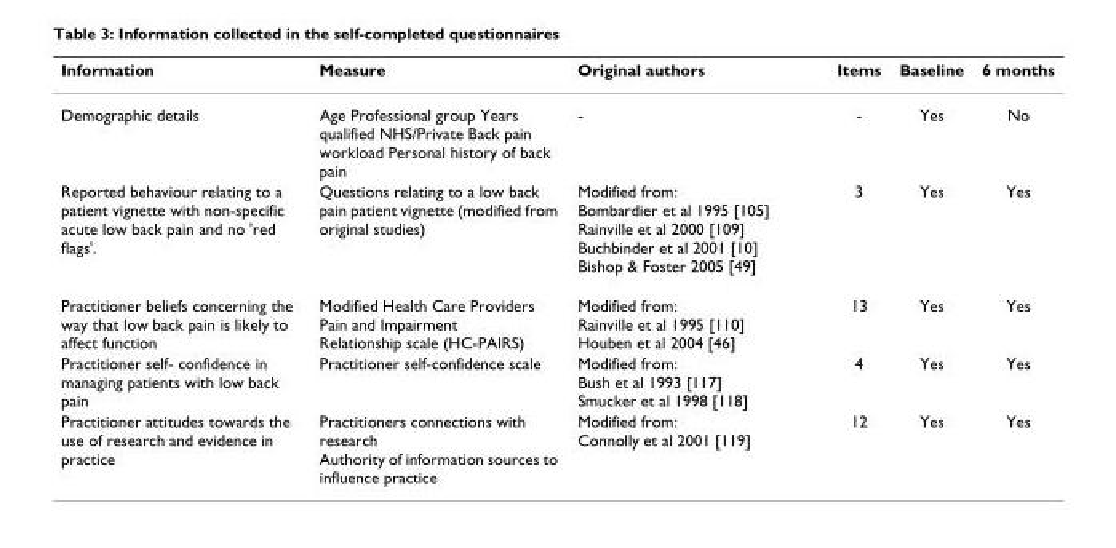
<table><thead><tr><td>Information</td><td>Measure</td><td>Original authors</td><td>Items</td><td>Baseline</td><td>6 months</td></tr></thead><tbody><tr><td>Demographic details</td><td>Age Professional group Years qualified NHS/Private Back pain workload Personal history of back pain</td><td>-</td><td>-</td><td>Yes</td><td>No</td></tr><tr><td>Reported behaviour relating to a patient vignette with non-specific acute low back pain and no &#x27;red flags&#x27;.</td><td>Questions relating to a low back pain patient vignette (modified from original studies)</td><td>Modified from: Bombardier et al 1995 [105] Rainville et al 2000 [109] Buchbinder et al 2001 [10] Bishop &amp; Foster 2005 [49]</td><td>3</td><td>Yes</td><td>Yes</td></tr><tr><td>Practitioner beliefs concerning the way that low back pain is likely to affect function</td><td>Modified Health Care Providers Pain and Impairment Relationship scale (HC-PAIRS)</td><td>Modified from: Rainville et al 1995 [110] Houben et al 2004 [46]</td><td>13</td><td>Yes</td><td>Yes</td></tr><tr><td>Practitioner self- confidence in managing patients with low back pain</td><td>Practitioner self-confidence scale</td><td>Modified from: Bush et al 1993 [117] Smucker et al 1998 [118]</td><td>4</td><td>Yes</td><td>Yes</td></tr><tr><td>Practitioner attitudes towards the use of research and evidence in practice</td><td>Practitioners connections with research Authority of information sources to influence practice</td><td>Modified from: Connolly et al 2001 [119]</td><td>12</td><td>Yes</td><td>Yes</td></tr></tbody></table>